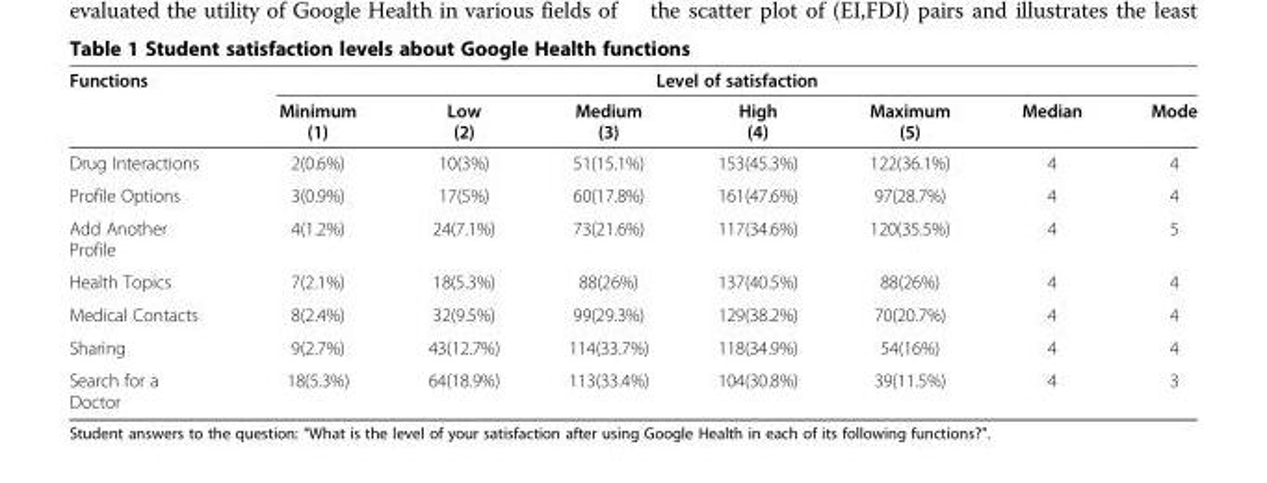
<table><thead><tr><td rowspan="2">Functions</td><td colspan="7">Level of satisfaction</td></tr><tr><td>Minimum (1)</td><td>Low (2)</td><td>Medium (3)</td><td>High (4)</td><td>Maximum (5)</td><td>Median</td><td>Mode</td></tr></thead><tbody><tr><td>Drug Interactions</td><td>2(0.6%)</td><td>10(3%)</td><td>51(15.1%)</td><td>153(45.3%)</td><td>122(36.1%)</td><td>4</td><td>4</td></tr><tr><td>Profile Options</td><td>3(0.9%)</td><td>17(5%)</td><td>60(17.8%)</td><td>161(47.6%)</td><td>97(28.7%)</td><td>4</td><td>4</td></tr><tr><td>Add Another Profile</td><td>4(1.2%)</td><td>24(7.1%)</td><td>73(21.6%)</td><td>117(34.6%)</td><td>120(35.5%)</td><td>4</td><td>5</td></tr><tr><td>Health Topics</td><td>7(2.1%)</td><td>18(5.3%)</td><td>88(26%)</td><td>137(40.5%)</td><td>88(26%)</td><td>4</td><td>4</td></tr><tr><td>Medical Contacts</td><td>8(2.4%)</td><td>32(9.5%)</td><td>99(29.3%)</td><td>129(38.2%)</td><td>70(20.7%)</td><td>4</td><td>4</td></tr><tr><td>Sharing</td><td>9(2.7%)</td><td>43(12.7%)</td><td>114(33.7%)</td><td>118(34.9%)</td><td>54(16%)</td><td>4</td><td>4</td></tr><tr><td>Search for a Doctor</td><td>18(5.3%)</td><td>64(18.9%)</td><td>113(33.4%)</td><td>104(30.8%)</td><td>39(11.5%)</td><td>4</td><td>3</td></tr></tbody></table>